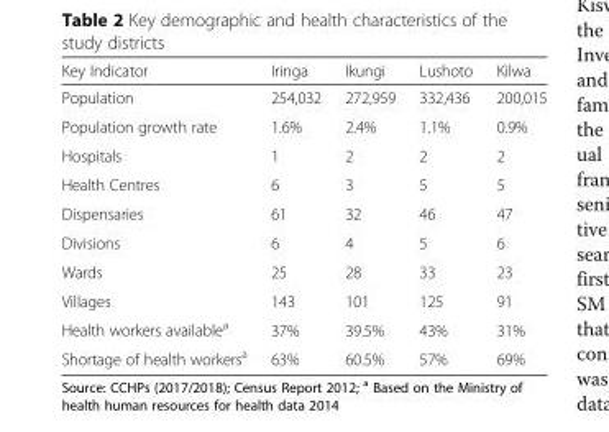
<table><thead><tr><td>Key Indicator</td><td>Iringa</td><td>Ikungi</td><td>Lushoto</td><td>Kilwa</td></tr></thead><tbody><tr><td>Population</td><td>254,032</td><td>272,959</td><td>332,436</td><td>200,015</td></tr><tr><td>Population growth rate</td><td>1.6%</td><td>2.4%</td><td>1.1%</td><td>0.9%</td></tr><tr><td>Hospitals</td><td>1</td><td>2</td><td>2</td><td>2</td></tr><tr><td>Health Centres</td><td>6</td><td>3</td><td>5</td><td>5</td></tr><tr><td>Dispensaries</td><td>61</td><td>32</td><td>46</td><td>47</td></tr><tr><td>Divisions</td><td>6</td><td>4</td><td>5</td><td>6</td></tr><tr><td>Wards</td><td>25</td><td>28</td><td>33</td><td>23</td></tr><tr><td>Villages</td><td>143</td><td>101</td><td>125</td><td>91</td></tr><tr><td>Health workers available<sup>a</sup></td><td>37%</td><td>39.5%</td><td>43%</td><td>31%</td></tr><tr><td>Shortage of health workers<sup>a</sup></td><td>63%</td><td>60.5%</td><td>57%</td><td>69%</td></tr></tbody></table>